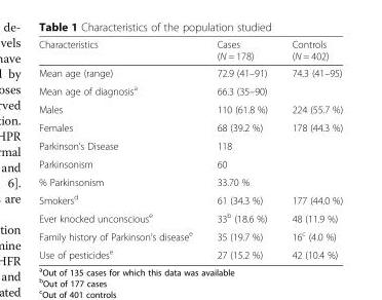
<table><thead><tr><td>Characteristics</td><td>Cases (N = 178)</td><td>Controls (N = 402)</td></tr></thead><tbody><tr><td>Mean age (range)</td><td>72.9 (41–91)</td><td>74.3 (41–95)</td></tr><tr><td>Mean age of diagnosis<sup>a</sup></td><td>66.3 (35–90)</td><td></td></tr><tr><td>Males</td><td>110 (61.8 %)</td><td>224 (55.7 %)</td></tr><tr><td>Females</td><td>68 (39.2 %)</td><td>178 (44.3 %)</td></tr><tr><td>Parkinson’s Disease</td><td>118</td><td></td></tr><tr><td>Parkinsonism</td><td>60</td><td></td></tr><tr><td>% Parkinsonism</td><td>33.70 %</td><td></td></tr><tr><td>Smokers<sup>d</sup></td><td>61 (34.3 %)</td><td>177 (44.0 %)</td></tr><tr><td>Ever knocked unconscious<sup>e</sup></td><td>33<sup>b</sup> (18.6 %)</td><td>48 (11.9 %)</td></tr><tr><td>Family history of Parkinson’s disease<sup>e</sup></td><td>35 (19.7 %)</td><td>16<sup>c</sup> (4.0 %)</td></tr><tr><td>Use of pesticides<sup>e</sup></td><td>27 (15.2 %)</td><td>42 (10.4 %)</td></tr></tbody></table>